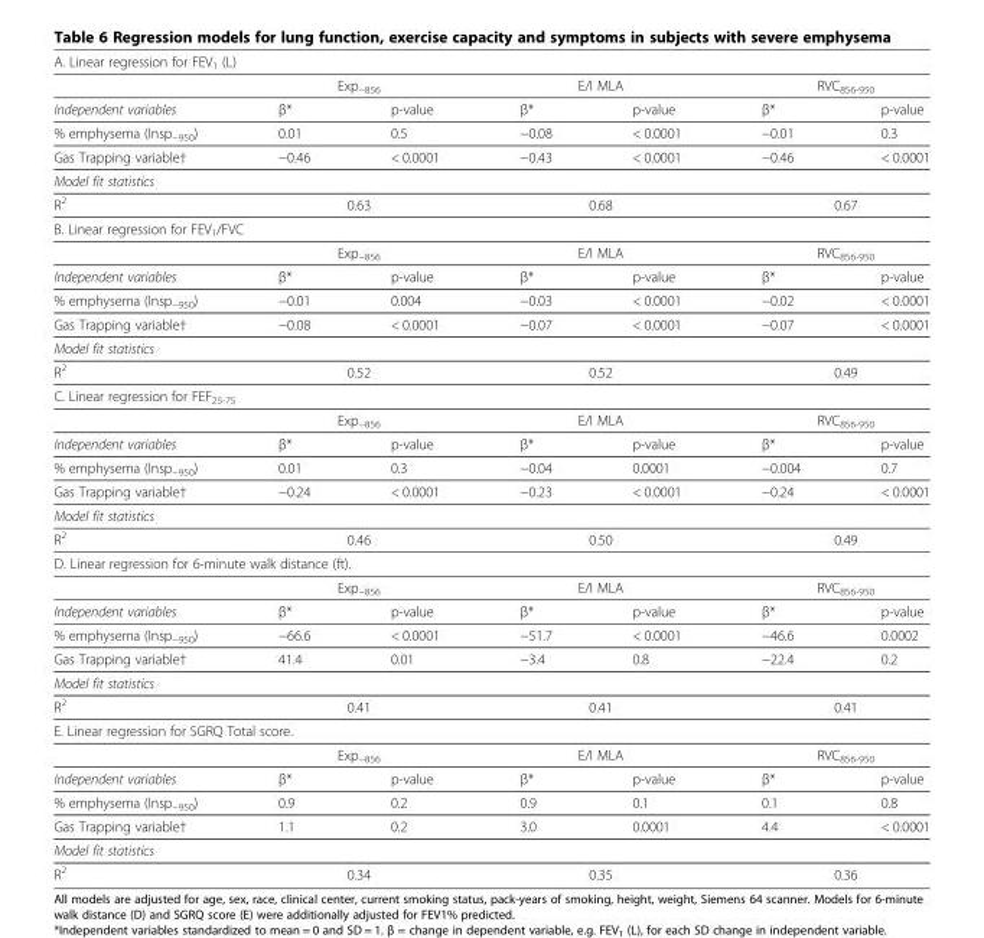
<table><tbody><tr><td colspan="7">A. Linear regression for FEV<sub>1</sub> (L)</td></tr><tr><td></td><td colspan="2">Exp<sub>−856</sub></td><td colspan="2">E/I MLA</td><td colspan="2">RVC<sub>856-950</sub></td></tr><tr><td>Independent variables</td><td>β*</td><td>p-value</td><td>β*</td><td>p-value</td><td>β*</td><td>p-value</td></tr><tr><td>% emphysema (Insp<sub>−950</sub>)</td><td>0.01</td><td>0.5</td><td>−0.08</td><td>&lt; 0.0001</td><td>−0.01</td><td>0.3</td></tr><tr><td>Gas Trapping variable†</td><td>−0.46</td><td>&lt; 0.0001</td><td>−0.43</td><td>&lt; 0.0001</td><td>−0.46</td><td>&lt; 0.0001</td></tr><tr><td colspan="7">Model fit statistics</td></tr><tr><td>R<sup>2</sup></td><td colspan="2">0.63</td><td colspan="2">0.68</td><td colspan="2">0.67</td></tr><tr><td colspan="7">B. Linear regression for FEV<sub>1</sub>/FVC</td></tr><tr><td></td><td colspan="2">Exp<sub>−856</sub></td><td colspan="2">E/I MLA</td><td colspan="2">RVC<sub>856-950</sub></td></tr><tr><td>Independent variables</td><td>β*</td><td>p-value</td><td>β*</td><td>p-value</td><td>β*</td><td>p-value</td></tr><tr><td>% emphysema (Insp<sub>−950</sub>)</td><td>−0.01</td><td>0.004</td><td>−0.03</td><td>&lt; 0.0001</td><td>−0.02</td><td>&lt; 0.0001</td></tr><tr><td>Gas Trapping variable†</td><td>−0.08</td><td>&lt; 0.0001</td><td>−0.07</td><td>&lt; 0.0001</td><td>−0.07</td><td>&lt; 0.0001</td></tr><tr><td colspan="7">Model fit statistics</td></tr><tr><td>R<sup>2</sup></td><td colspan="2">0.52</td><td colspan="2">0.52</td><td colspan="2">0.49</td></tr><tr><td colspan="7">C. Linear regression for FEF<sub>25-75</sub></td></tr><tr><td></td><td colspan="2">Exp<sub>−856</sub></td><td colspan="2">E/I MLA</td><td colspan="2">RVC<sub>856-950</sub></td></tr><tr><td>Independent variables</td><td>β*</td><td>p-value</td><td>β*</td><td>p-value</td><td>β*</td><td>p-value</td></tr><tr><td>% emphysema (Insp<sub>−950</sub>)</td><td>0.01</td><td>0.3</td><td>−0.04</td><td>0.0001</td><td>−0.004</td><td>0.7</td></tr><tr><td>Gas Trapping variable†</td><td>−0.24</td><td>&lt; 0.0001</td><td>−0.23</td><td>&lt; 0.0001</td><td>−0.24</td><td>&lt; 0.0001</td></tr><tr><td colspan="7">Model fit statistics</td></tr><tr><td>R<sup>2</sup></td><td colspan="2">0.46</td><td colspan="2">0.50</td><td colspan="2">0.49</td></tr><tr><td colspan="7">D. Linear regression for 6-minute walk distance (ft).</td></tr><tr><td></td><td colspan="2">Exp<sub>−856</sub></td><td colspan="2">E/I MLA</td><td colspan="2">RVC<sub>856-950</sub></td></tr><tr><td>Independent variables</td><td>β*</td><td>p-value</td><td>β*</td><td>p-value</td><td>β*</td><td>p-value</td></tr><tr><td>% emphysema (Insp<sub>−950</sub>)</td><td>−66.6</td><td>&lt; 0.0001</td><td>−51.7</td><td>&lt; 0.0001</td><td>−46.6</td><td>0.0002</td></tr><tr><td>Gas Trapping variable†</td><td>41.4</td><td>0.01</td><td>−3.4</td><td>0.8</td><td>−22.4</td><td>0.2</td></tr><tr><td colspan="7">Model fit statistics</td></tr><tr><td>R<sup>2</sup></td><td colspan="2">0.41</td><td colspan="2">0.41</td><td colspan="2">0.41</td></tr><tr><td colspan="7">E. Linear regression for SGRQ Total score.</td></tr><tr><td></td><td colspan="2">Exp<sub>−856</sub></td><td colspan="2">E/I MLA</td><td colspan="2">RVC<sub>856-950</sub></td></tr><tr><td>Independent variables</td><td>β*</td><td>p-value</td><td>β*</td><td>p-value</td><td>β*</td><td>p-value</td></tr><tr><td>% emphysema (Insp<sub>−950</sub>)</td><td>0.9</td><td>0.2</td><td>0.9</td><td>0.1</td><td>0.1</td><td>0.8</td></tr><tr><td>Gas Trapping variable†</td><td>1.1</td><td>0.2</td><td>3.0</td><td>0.0001</td><td>4.4</td><td>&lt; 0.0001</td></tr><tr><td colspan="7">Model fit statistics</td></tr><tr><td>R<sup>2</sup></td><td colspan="2">0.34</td><td colspan="2">0.35</td><td colspan="2">0.36</td></tr></tbody></table>